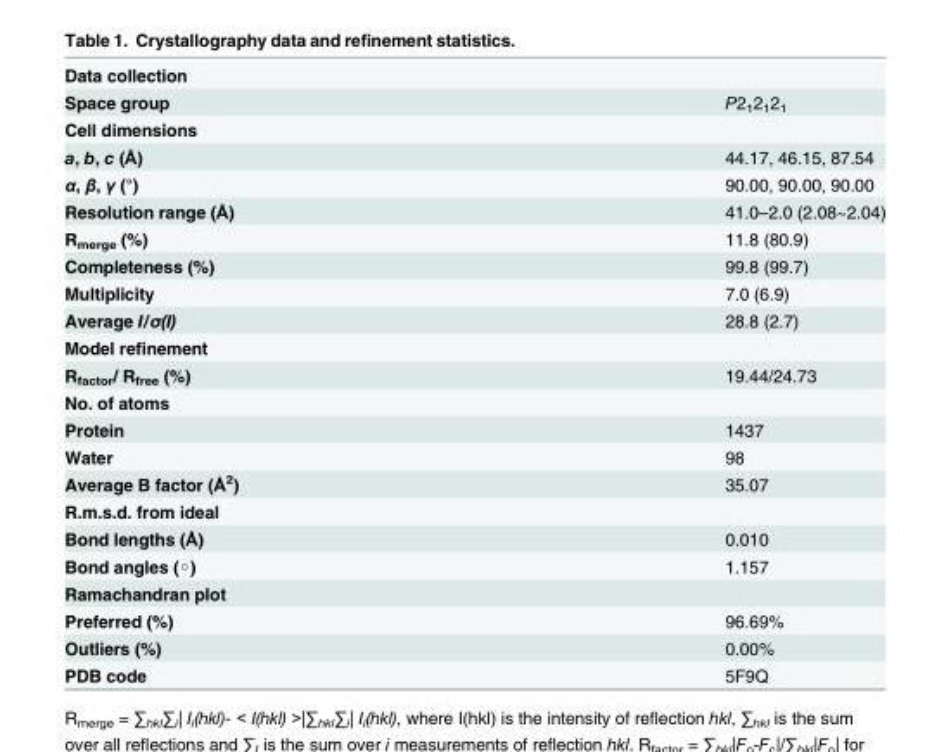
<table><tbody><tr><td colspan="2">Data collection</td></tr><tr><td>Space group</td><td>P2<sub>1</sub>2<sub>1</sub>2<sub>1</sub></td></tr><tr><td colspan="2">Cell dimensions</td></tr><tr><td>a, b, c (Å)</td><td>44.17, 46.15, 87.54</td></tr><tr><td>α, β, γ (°)</td><td>90.00, 90.00, 90.00</td></tr><tr><td>Resolution range (Å)</td><td>41.0–2.0 (2.08~2.04)</td></tr><tr><td>R<sub>merge</sub> (%)</td><td>11.8 (80.9)</td></tr><tr><td>Completeness (%)</td><td>99.8 (99.7)</td></tr><tr><td>Multiplicity</td><td>7.0 (6.9)</td></tr><tr><td>Average I/σ(I)</td><td>28.8 (2.7)</td></tr><tr><td colspan="2">Model refinement</td></tr><tr><td>R<sub>factor</sub>/ R<sub>free</sub> (%)</td><td>19.44/24.73</td></tr><tr><td colspan="2">No. of atoms</td></tr><tr><td>Protein</td><td>1437</td></tr><tr><td>Water</td><td>98</td></tr><tr><td>Average B factor (Å<sup>2</sup>)</td><td>35.07</td></tr><tr><td colspan="2">R.m.s.d. from ideal</td></tr><tr><td>Bond lengths (Å)</td><td>0.010</td></tr><tr><td>Bond angles (◦)</td><td>1.157</td></tr><tr><td colspan="2">Ramachandran plot</td></tr><tr><td>Preferred (%)</td><td>96.69%</td></tr><tr><td>Outliers (%)</td><td>0.00%</td></tr><tr><td>PDB code</td><td>5F9Q</td></tr></tbody></table>